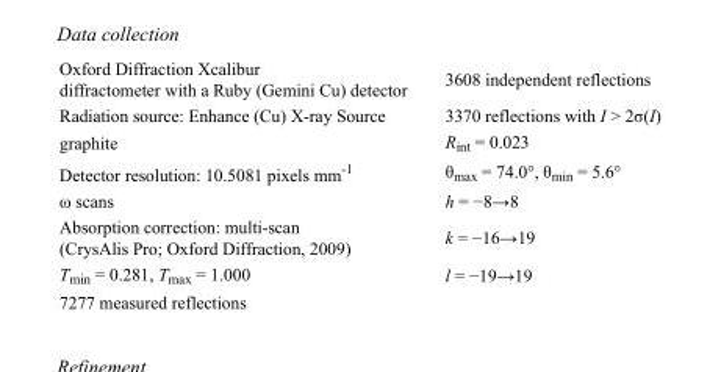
<table><tbody><tr><td>Oxford Diffraction Xcalibur diffractometer with a Ruby (Gemini Cu) detector</td><td>3608 independent reflections</td></tr><tr><td>Radiation source: Enhance (Cu) X-ray Source</td><td>3370 reflections with I &gt; 2σ(I)</td></tr><tr><td>graphite</td><td>R<sub>int</sub> = 0.023</td></tr><tr><td>Detector resolution: 10.5081 pixels mm<sup>-1</sup></td><td>θ<sub>max</sub> = 74.0°, θ<sub>min</sub> = 5.6°</td></tr><tr><td>ω scans</td><td>h = −8→8</td></tr><tr><td>Absorption correction: multi-scan (CrysAlis Pro; Oxford Diffraction, 2009)</td><td>k = −16→19</td></tr><tr><td>T<sub>min</sub> = 0.281, T<sub>max</sub> = 1.000</td><td>l = −19→19</td></tr><tr><td>7277 measured reflections</td><td></td></tr></tbody></table>